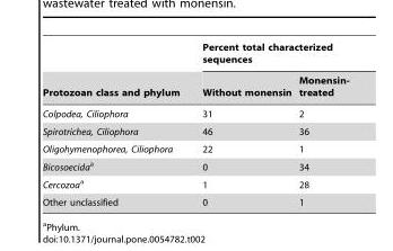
<table><thead><tr><td rowspan="2">Protozoan class and phylum</td><td colspan="2">Percent total characterized sequences</td></tr><tr><td>Without monensin</td><td>Monensin- treated</td></tr></thead><tbody><tr><td>Colpodea, Ciliophora</td><td>31</td><td>2</td></tr><tr><td>Spirotrichea, Ciliophora</td><td>46</td><td>36</td></tr><tr><td>Oligohymenophorea, Ciliophora</td><td>22</td><td>1</td></tr><tr><td>Bicosoecidaa</td><td>0</td><td>34</td></tr><tr><td>Cercozoaa</td><td>1</td><td>28</td></tr><tr><td>Other unclassified</td><td>0</td><td>1</td></tr></tbody></table>